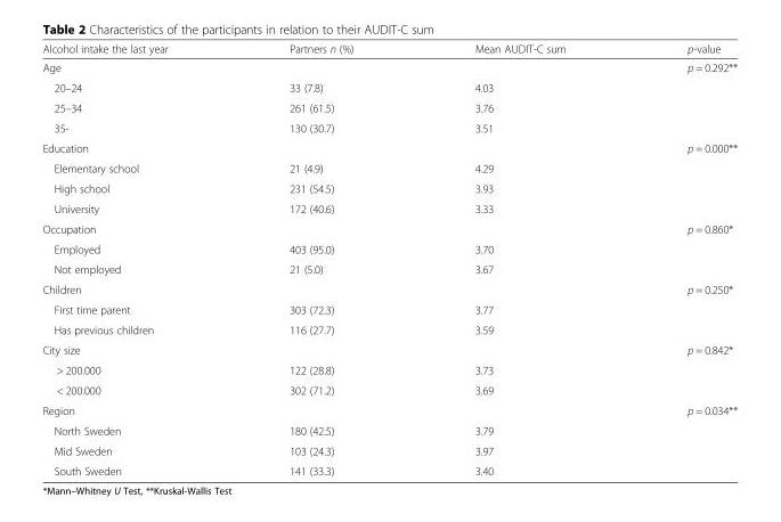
<table><thead><tr><td>Alcohol intake the last year</td><td>Partners n (%)</td><td>Mean AUDIT-C sum</td><td>p-value</td></tr></thead><tbody><tr><td colspan="3">Age</td><td rowspan="4">p = 0.292**</td></tr><tr><td>20–24</td><td>33 (7.8)</td><td>4.03</td></tr><tr><td>25–34</td><td>261 (61.5)</td><td>3.76</td></tr><tr><td>35-</td><td>130 (30.7)</td><td>3.51</td></tr><tr><td colspan="3">Education</td><td rowspan="4">p = 0.000**</td></tr><tr><td>Elementary school</td><td>21 (4.9)</td><td>4.29</td></tr><tr><td>High school</td><td>231 (54.5)</td><td>3.93</td></tr><tr><td>University</td><td>172 (40.6)</td><td>3.33</td></tr><tr><td colspan="3">Occupation</td><td rowspan="3">p = 0.860*</td></tr><tr><td>Employed</td><td>403 (95.0)</td><td>3.70</td></tr><tr><td>Not employed</td><td>21 (5.0)</td><td>3.67</td></tr><tr><td colspan="3">Children</td><td rowspan="3">p = 0.250*</td></tr><tr><td>First time parent</td><td>303 (72.3)</td><td>3.77</td></tr><tr><td>Has previous children</td><td>116 (27.7)</td><td>3.59</td></tr><tr><td colspan="3">City size</td><td rowspan="3">p = 0.842*</td></tr><tr><td>&gt; 200.000</td><td>122 (28.8)</td><td>3.73</td></tr><tr><td>&lt; 200.000</td><td>302 (71.2)</td><td>3.69</td></tr><tr><td colspan="3">Region</td><td rowspan="4">p = 0.034**</td></tr><tr><td>North Sweden</td><td>180 (42.5)</td><td>3.79</td></tr><tr><td>Mid Sweden</td><td>103 (24.3)</td><td>3.97</td></tr><tr><td>South Sweden</td><td>141 (33.3)</td><td>3.40</td></tr></tbody></table>